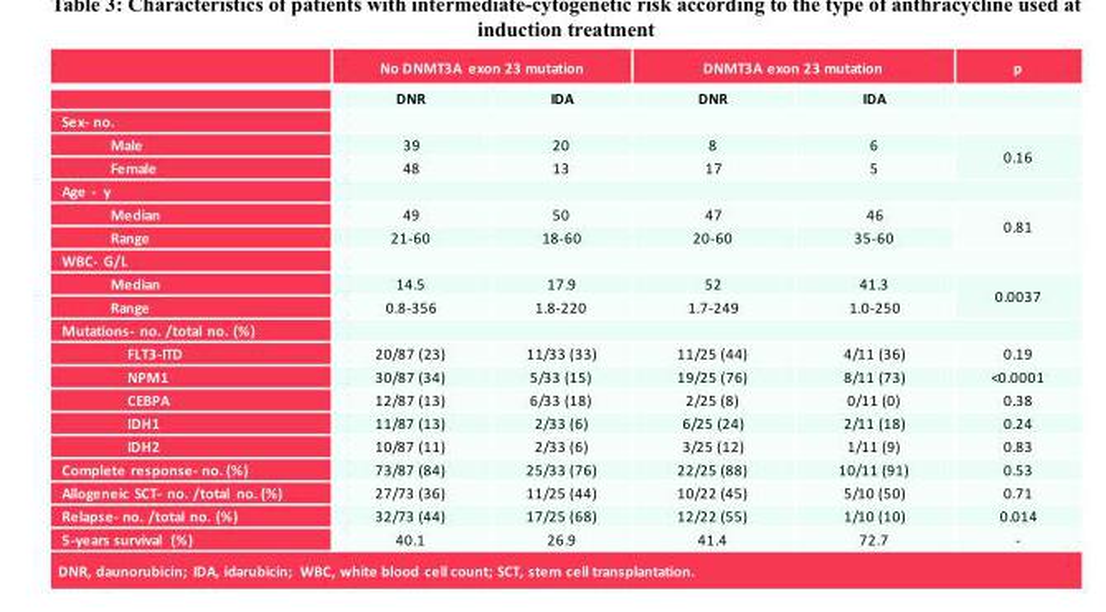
<table><thead><tr><td rowspan="2"></td><td colspan="2">No DNMT3A exon 23 mutation</td><td colspan="2">DNMT3A exon 23 mutation</td><td rowspan="2">p</td></tr><tr><td>DNR</td><td>IDA</td><td>DNR</td><td>IDA</td></tr></thead><tbody><tr><td colspan="6">Sex- no.</td></tr><tr><td>Male</td><td>39</td><td>20</td><td>8</td><td>6</td><td rowspan="2">0.16</td></tr><tr><td>Female</td><td>48</td><td>13</td><td>17</td><td>5</td></tr><tr><td colspan="6">Age - y</td></tr><tr><td>Median</td><td>49</td><td>50</td><td>47</td><td>46</td><td rowspan="2">0.81</td></tr><tr><td>Range</td><td>21-60</td><td>18-60</td><td>20-60</td><td>35-60</td></tr><tr><td colspan="6">WBC- G/L</td></tr><tr><td>Median</td><td>14.5</td><td>17.9</td><td>52</td><td>41.3</td><td rowspan="2">0.0037</td></tr><tr><td>Range</td><td>0.8-356</td><td>1.8-220</td><td>1.7-249</td><td>1.0-250</td></tr><tr><td colspan="6">Mutations- no. /total no. (%)</td></tr><tr><td>FLT3-ITD</td><td>20/87 (23)</td><td>11/33 (33)</td><td>11/25 (44)</td><td>4/11 (36)</td><td>0.19</td></tr><tr><td>NPM1</td><td>30/87 (34)</td><td>5/33 (15)</td><td>19/25 (76)</td><td>8/11 (73)</td><td>&lt;0.0001</td></tr><tr><td>CEBPA</td><td>12/87 (13)</td><td>6/33 (18)</td><td>2/25 (8)</td><td>0/11 (0)</td><td>0.38</td></tr><tr><td>IDH1</td><td>11/87 (13)</td><td>2/33 (6)</td><td>6/25 (24)</td><td>2/11 (18)</td><td>0.24</td></tr><tr><td>IDH2</td><td>10/87 (11)</td><td>2/33 (6)</td><td>3/25 (12)</td><td>1/11 (9)</td><td>0.83</td></tr><tr><td>Complete response- no. (%)</td><td>73/87 (84)</td><td>25/33 (76)</td><td>22/25 (88)</td><td>10/11 (91)</td><td>0.53</td></tr><tr><td>Allogeneic SCT- no. /total no. (%)</td><td>27/73 (36)</td><td>11/25 (44)</td><td>10/22 (45)</td><td>5/10 (50)</td><td>0.71</td></tr><tr><td>Relapse- no. /total no. (%)</td><td>32/73 (44)</td><td>17/25 (68)</td><td>12/22 (55)</td><td>1/10 (10)</td><td>0.014</td></tr><tr><td>5-years survival (%)</td><td>40.1</td><td>26.9</td><td>41.4</td><td>72.7</td><td>-</td></tr></tbody></table>